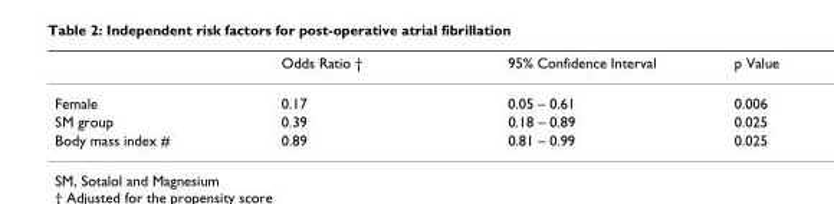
<table><thead><tr><td></td><td>Odds Ratio †</td><td>95% Confidence Interval</td><td>p Value</td></tr></thead><tbody><tr><td>Female</td><td>0.17</td><td>0.05 – 0.61</td><td>0.006</td></tr><tr><td>SM group</td><td>0.39</td><td>0.18 – 0.89</td><td>0.025</td></tr><tr><td>Body mass index #</td><td>0.89</td><td>0.81 – 0.99</td><td>0.025</td></tr></tbody></table>